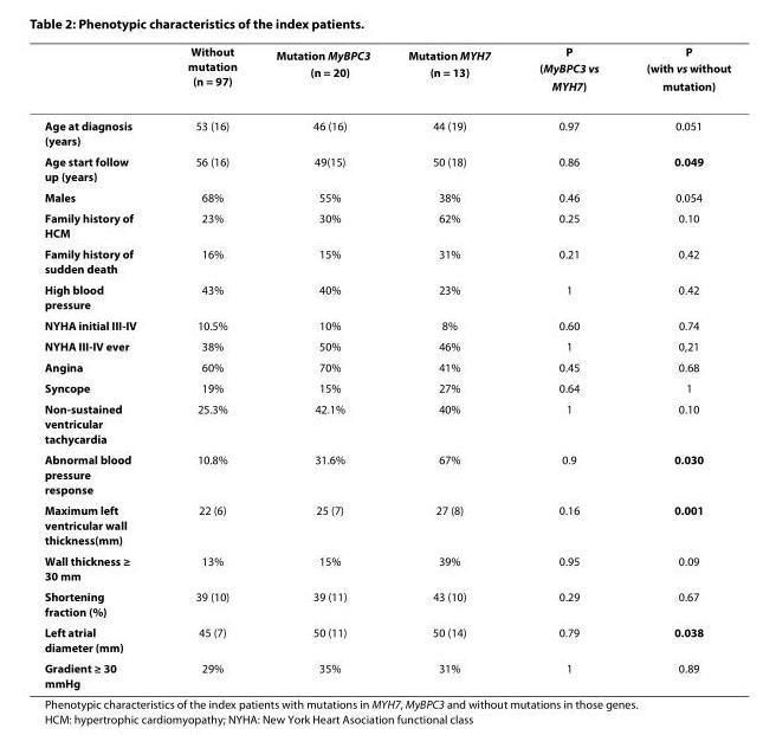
<table><thead><tr><td></td><td>Without mutation (n = 97)</td><td>Mutation MyBPC3 (n = 20)</td><td>Mutation MYH7 (n = 13)</td><td>P (MyBPC3 vs MYH7)</td><td>P (with vs without mutation)</td></tr></thead><tbody><tr><td>Age at diagnosis (years)</td><td>53 (16)</td><td>46 (16)</td><td>44 (19)</td><td>0.97</td><td>0.051</td></tr><tr><td>Age start follow up (years)</td><td>56 (16)</td><td>49(15)</td><td>50 (18)</td><td>0.86</td><td>0.049</td></tr><tr><td>Males</td><td>68%</td><td>55%</td><td>38%</td><td>0.46</td><td>0.054</td></tr><tr><td>Family history of HCM</td><td>23%</td><td>30%</td><td>62%</td><td>0.25</td><td>0.10</td></tr><tr><td>Family history of sudden death</td><td>16%</td><td>15%</td><td>31%</td><td>0.21</td><td>0.42</td></tr><tr><td>High blood pressure</td><td>43%</td><td>40%</td><td>23%</td><td>1</td><td>0.42</td></tr><tr><td>NYHA initial III-IV</td><td>10.5%</td><td>10%</td><td>8%</td><td>0.60</td><td>0.74</td></tr><tr><td>NYHA III-IV ever</td><td>38%</td><td>50%</td><td>46%</td><td>1</td><td>0,21</td></tr><tr><td>Angina</td><td>60%</td><td>70%</td><td>41%</td><td>0.45</td><td>0.68</td></tr><tr><td>Syncope</td><td>19%</td><td>15%</td><td>27%</td><td>0.64</td><td>1</td></tr><tr><td>Non-sustained ventricular tachycardia</td><td>25.3%</td><td>42.1%</td><td>40%</td><td>1</td><td>0.10</td></tr><tr><td>Abnormal blood pressure response</td><td>10.8%</td><td>31.6%</td><td>67%</td><td>0.9</td><td>0.030</td></tr><tr><td>Maximum left ventricular wall thickness(mm)</td><td>22 (6)</td><td>25 (7)</td><td>27 (8)</td><td>0.16</td><td>0.001</td></tr><tr><td>Wall thickness ≥ 30 mm</td><td>13%</td><td>15%</td><td>39%</td><td>0.95</td><td>0.09</td></tr><tr><td>Shortening fraction (%)</td><td>39 (10)</td><td>39 (11)</td><td>43 (10)</td><td>0.29</td><td>0.67</td></tr><tr><td>Left atrial diameter (mm)</td><td>45 (7)</td><td>50 (11)</td><td>50 (14)</td><td>0.79</td><td>0.038</td></tr><tr><td>Gradient ≥ 30 mmHg</td><td>29%</td><td>35%</td><td>31%</td><td>1</td><td>0.89</td></tr></tbody></table>